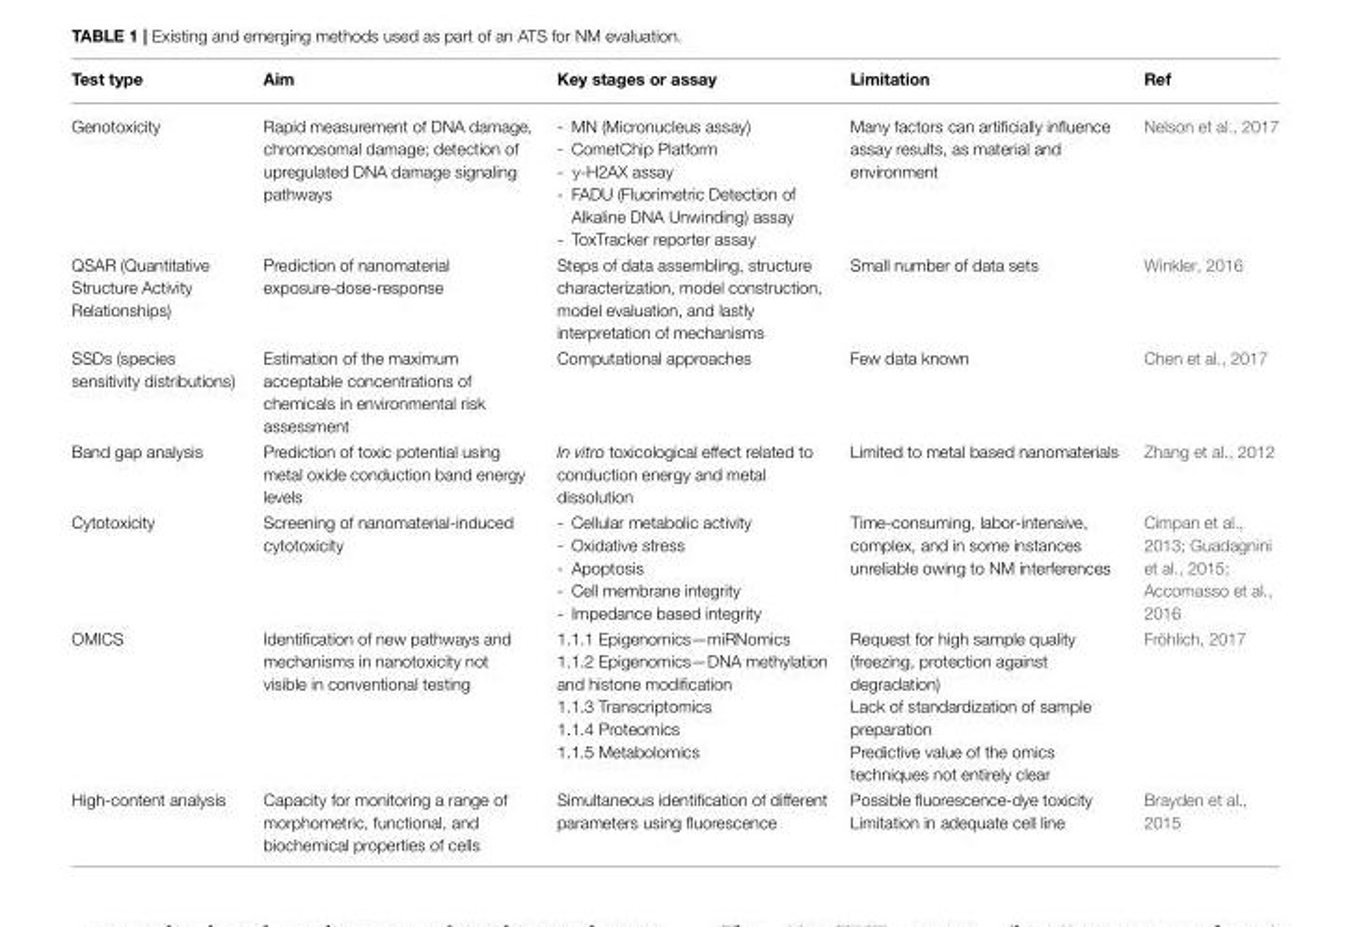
<table><thead><tr><td>Test type</td><td>Aim</td><td>Key stages or assay</td><td>Limitation</td><td>Ref</td></tr></thead><tbody><tr><td>Genotoxicity</td><td>Rapid measurement of DNA damage, chromosomal damage; detection of upregulated DNA damage signaling pathways</td><td>- MN (Micronucleus assay) - CometChip Platform - γ-H2AX assay - FADU (Fluorimetric Detection of Alkaline DNA Unwinding) assay - ToxTracker reporter assay</td><td>Many factors can artificially influence assay results, as material and environment</td><td>Nelson et al., 2017</td></tr><tr><td>QSAR (Quantitative Structure Activity Relationships)</td><td>Prediction of nanomaterial exposure-dose-response</td><td>Steps of data assembling, structure characterization, model construction, model evaluation, and lastly interpretation of mechanisms</td><td>Small number of data sets</td><td>Winkler, 2016</td></tr><tr><td>SSDs (species sensitivity distributions)</td><td>Estimation of the maximum acceptable concentrations of chemicals in environmental risk assessment</td><td>Computational approaches</td><td>Few data known</td><td>Chen et al., 2017</td></tr><tr><td>Band gap analysis</td><td>Prediction of toxic potential using metal oxide conduction band energy levels</td><td>In vitro toxicological effect related to conduction energy and metal dissolution</td><td>Limited to metal based nanomaterials</td><td>Zhang et al., 2012</td></tr><tr><td>Cytotoxicity</td><td>Screening of nanomaterial-induced cytotoxicity</td><td>- Cellular metabolic activity - Oxidative stress - Apoptosis - Cell membrane integrity - Impedance based integrity</td><td>Time-consuming, labor-intensive, complex, and in some instances unreliable owing to NM interferences</td><td>Cimpan et al., 2013; Guadagnini et al., 2015; Accomasso et al., 2016</td></tr><tr><td>OMICS</td><td>Identification of new pathways and mechanisms in nanotoxicity not visible in conventional testing</td><td>1.1.1 Epigenomics—miRNomics 1.1.2 Epigenomics—DNA methylation and histone modification 1.1.3 Transcriptomics 1.1.4 Proteomics 1.1.5 Metabolomics</td><td>Request for high sample quality (freezing, protection against degradation) Lack of standardization of sample preparation Predictive value of the omics techniques not entirely clear</td><td>Fröhlich, 2017</td></tr><tr><td>High-content analysis</td><td>Capacity for monitoring a range of morphometric, functional, and biochemical properties of cells</td><td>Simultaneous identification of different parameters using fluorescence</td><td>Possible fluorescence-dye toxicity Limitation in adequate cell line</td><td>Brayden et al., 2015</td></tr></tbody></table>